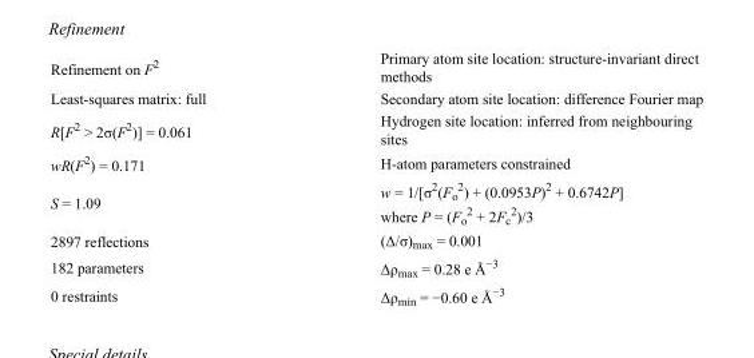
<table><tbody><tr><td>Refinement on F<sup>2</sup></td><td>Primary atom site location: structure-invariant direct methods</td></tr><tr><td>Least-squares matrix: full</td><td>Secondary atom site location: difference Fourier map</td></tr><tr><td>R[F<sup>2</sup> &gt; 2σ(F<sup>2</sup>)] = 0.061</td><td>Hydrogen site location: inferred from neighbouring sites</td></tr><tr><td>wR(F<sup>2</sup>) = 0.171</td><td>H-atom parameters constrained</td></tr><tr><td>S = 1.09</td><td>w = 1/[σ<sup>2</sup>(F<sub>o</sub> <sup>2</sup>) + (0.0953P)<sup>2</sup> + 0.6742P] where P = (F<sub>o</sub> <sup>2</sup> + 2F<sub>c</sub> <sup>2</sup>)/3</td></tr><tr><td>2897 reflections</td><td>(Δ/σ)<sub>max</sub> = 0.001</td></tr><tr><td>182 parameters</td><td>Δρ<sub>max</sub> = 0.28 e Å<sup>−3</sup></td></tr><tr><td>0 restraints</td><td>Δρ<sub>min</sub> = −0.60 e Å<sup>−3</sup></td></tr></tbody></table>